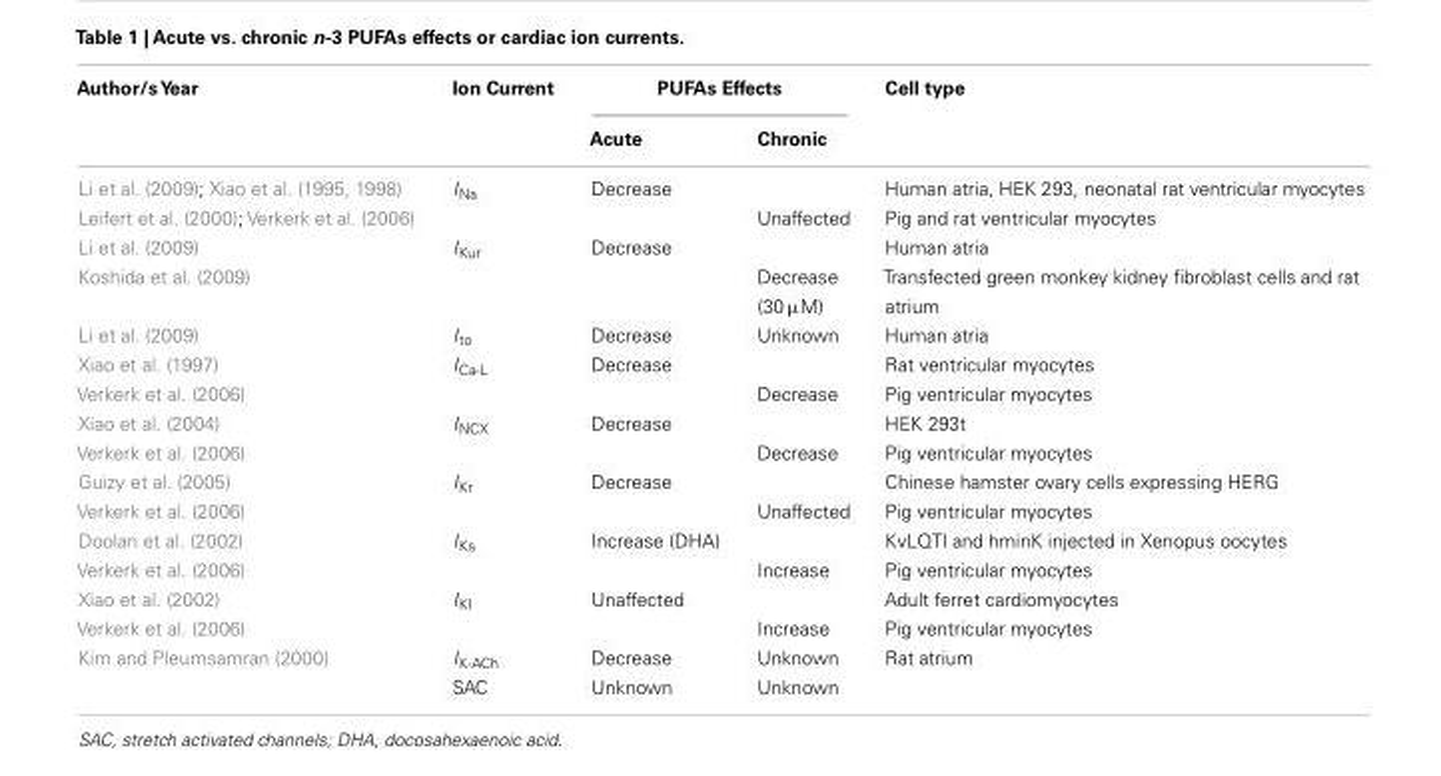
<table><thead><tr><td rowspan="2">Author/sYear</td><td rowspan="2">Ion Current</td><td colspan="2">PUFAs Effects</td><td rowspan="2">Cell type</td></tr><tr><td>Acute</td><td>Chronic</td></tr></thead><tbody><tr><td>Li et al. (2009); Xiao et al. (1995, 1998)</td><td>I<sub>Na</sub></td><td>Decrease</td><td></td><td>Human atria, HEK 293, neonatal rat ventricular myocytes</td></tr><tr><td>Leifert et al. (2000); Verkerk et al. (2006)</td><td></td><td></td><td>Unaffected</td><td>Pig and rat ventricular myocytes</td></tr><tr><td>Li et al. (2009)</td><td>I<sub>Kur</sub></td><td>Decrease</td><td></td><td>Human atria</td></tr><tr><td>Koshida et al. (2009)</td><td></td><td></td><td>Decrease (30 µM)</td><td>Transfected green monkey kidney fibroblast cells and rat atrium</td></tr><tr><td>Li et al. (2009)</td><td>I<sub>to</sub></td><td>Decrease</td><td>Unknown</td><td>Human atria</td></tr><tr><td>Xiao et al. (1997)</td><td>I<sub>Ca-L</sub></td><td>Decrease</td><td></td><td>Rat ventricular myocytes</td></tr><tr><td>Verkerk et al. (2006)</td><td></td><td></td><td>Decrease</td><td>Pig ventricular myocytes</td></tr><tr><td>Xiao et al. (2004)</td><td>I<sub>NCX</sub></td><td>Decrease</td><td></td><td>HEK 293t</td></tr><tr><td>Verkerk et al. (2006)</td><td></td><td></td><td>Decrease</td><td>Pig ventricular myocytes</td></tr><tr><td>Guizy et al. (2005)</td><td>I<sub>Kr</sub></td><td>Decrease</td><td></td><td>Chinese hamster ovary cells expressing HERG</td></tr><tr><td>Verkerk et al. (2006)</td><td></td><td></td><td>Unaffected</td><td>Pig ventricular myocytes</td></tr><tr><td>Doolan et al. (2002)</td><td>I<sub>Ks</sub></td><td>Increase (DHA)</td><td></td><td>KvLQTl and hminK injected in Xenopus oocytes</td></tr><tr><td>Verkerk et al. (2006)</td><td></td><td></td><td>Increase</td><td>Pig ventricular myocytes</td></tr><tr><td>Xiao et al. (2002)</td><td>I<sub>KI</sub></td><td>Unaffected</td><td></td><td>Adult ferret cardiomyocytes</td></tr><tr><td>Verkerk et al. (2006)</td><td></td><td></td><td>Increase</td><td>Pig ventricular myocytes</td></tr><tr><td rowspan="2">Kim and Pleumsamran (2000)</td><td>I<sub>K-ACh</sub></td><td>Decrease</td><td>Unknown</td><td>Rat atrium</td></tr><tr><td>SAC</td><td>Unknown</td><td>Unknown</td><td></td></tr></tbody></table>